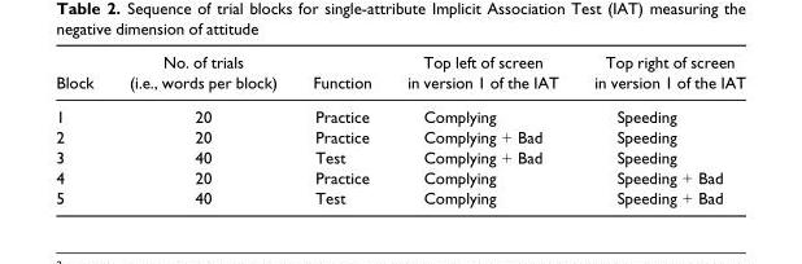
<table><thead><tr><td>Block</td><td>No. of trials (i.e., words per block)</td><td>Function</td><td>Top left of screen in version 1 of the IAT</td><td>Top right of screen in version 1 of the IAT</td></tr></thead><tbody><tr><td>1</td><td>20</td><td>Practice</td><td>Complying</td><td>Speeding</td></tr><tr><td>2</td><td>20</td><td>Practice</td><td>Complying + Bad</td><td>Speeding</td></tr><tr><td>3</td><td>40</td><td>Test</td><td>Complying + Bad</td><td>Speeding</td></tr><tr><td>4</td><td>20</td><td>Practice</td><td>Complying</td><td>Speeding + Bad</td></tr><tr><td>5</td><td>40</td><td>Test</td><td>Complying</td><td>Speeding + Bad</td></tr></tbody></table>